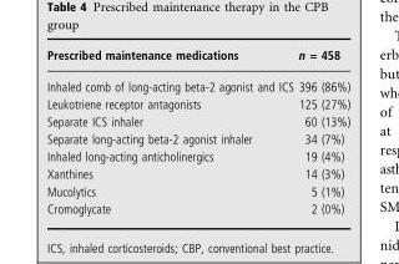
<table><thead><tr><td>Prescribed maintenance medications</td><td>n = 458</td></tr></thead><tbody><tr><td>Inhaled comb of long-acting beta-2 agonist and ICS</td><td>396 (86%)</td></tr><tr><td>Leukotriene receptor antagonists</td><td>125 (27%)</td></tr><tr><td>Separate ICS inhaler</td><td>60 (13%)</td></tr><tr><td>Separate long-acting beta-2 agonist inhaler</td><td>34 (7%)</td></tr><tr><td>Inhaled long-acting anticholinergics</td><td>19 (4%)</td></tr><tr><td>Xanthines</td><td>14 (3%)</td></tr><tr><td>Mucolytics</td><td>5 (1%)</td></tr><tr><td>Cromoglycate</td><td>2 (0%)</td></tr></tbody></table>